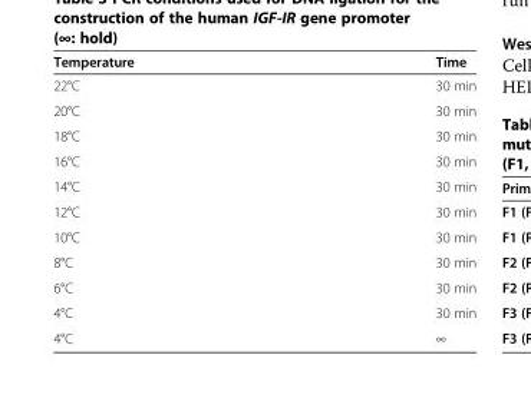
<table><thead><tr><td>Temperature</td><td>Time</td></tr></thead><tbody><tr><td>22°C</td><td>30 min</td></tr><tr><td>20°C</td><td>30 min</td></tr><tr><td>18°C</td><td>30 min</td></tr><tr><td>16°C</td><td>30 min</td></tr><tr><td>14°C</td><td>30 min</td></tr><tr><td>12°C</td><td>30 min</td></tr><tr><td>10°C</td><td>30 min</td></tr><tr><td>8°C</td><td>30 min</td></tr><tr><td>6°C</td><td>30 min</td></tr><tr><td>4°C</td><td>30 min</td></tr><tr><td>4°C</td><td>∞</td></tr></tbody></table>